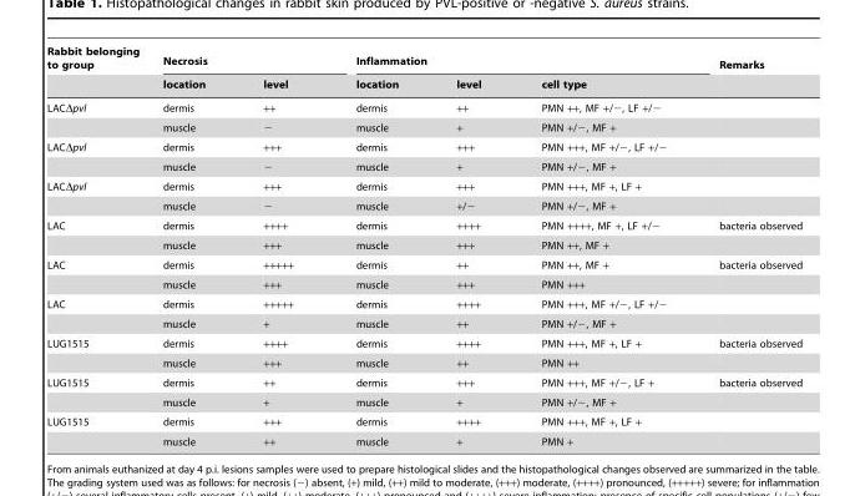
<table><thead><tr><td rowspan="2">Rabbit belonging to group</td><td colspan="2">Necrosis</td><td colspan="3">Inflammation</td><td rowspan="2">Remarks</td></tr><tr><td>location</td><td>level</td><td>location</td><td>level</td><td>cell type</td></tr></thead><tbody><tr><td rowspan="2">LACΔpvl</td><td>dermis</td><td>++</td><td>dermis</td><td>++</td><td>PMN ++, MF +/−, LF +/−</td><td></td></tr><tr><td>muscle</td><td>−</td><td>muscle</td><td>+</td><td>PMN +/−, MF +</td><td></td></tr><tr><td rowspan="2">LACΔpvl</td><td>dermis</td><td>+++</td><td>dermis</td><td>+++</td><td>PMN +++, MF +/−, LF +/−</td><td></td></tr><tr><td>muscle</td><td>−</td><td>muscle</td><td>+</td><td>PMN +/−, MF +</td><td></td></tr><tr><td rowspan="2">LACΔpvl</td><td>dermis</td><td>+++</td><td>dermis</td><td>+++</td><td>PMN +++, MF +, LF +</td><td></td></tr><tr><td>muscle</td><td>−</td><td>muscle</td><td>+/−</td><td>PMN +/−, MF +</td><td></td></tr><tr><td rowspan="2">LAC</td><td>dermis</td><td>++++</td><td>dermis</td><td>++++</td><td>PMN ++++, MF +, LF +/−</td><td>bacteria observed</td></tr><tr><td>muscle</td><td>+++</td><td>muscle</td><td>+++</td><td>PMN ++, MF +</td><td></td></tr><tr><td rowspan="2">LAC</td><td>dermis</td><td>+++++</td><td>dermis</td><td>++</td><td>PMN ++, MF +</td><td>bacteria observed</td></tr><tr><td>muscle</td><td>+++</td><td>muscle</td><td>+++</td><td>PMN +++</td><td></td></tr><tr><td rowspan="2">LAC</td><td>dermis</td><td>+++++</td><td>dermis</td><td>++++</td><td>PMN +++, MF +/−, LF +/−</td><td></td></tr><tr><td>muscle</td><td>+</td><td>muscle</td><td>++</td><td>PMN +/−, MF +</td><td></td></tr><tr><td rowspan="2">LUG1515</td><td>dermis</td><td>++++</td><td>dermis</td><td>++++</td><td>PMN +++, MF +, LF +</td><td>bacteria observed</td></tr><tr><td>muscle</td><td>+++</td><td>muscle</td><td>++</td><td>PMN ++</td><td></td></tr><tr><td rowspan="2">LUG1515</td><td>dermis</td><td>++</td><td>dermis</td><td>+++</td><td>PMN +++, MF +/−, LF +</td><td>bacteria observed</td></tr><tr><td>muscle</td><td>+</td><td>muscle</td><td>+</td><td>PMN +/−, MF +</td><td></td></tr><tr><td rowspan="2">LUG1515</td><td>dermis</td><td>+++</td><td>dermis</td><td>++++</td><td>PMN +++, MF +, LF +</td><td></td></tr><tr><td>muscle</td><td>++</td><td>muscle</td><td>+</td><td>PMN +</td><td></td></tr></tbody></table>